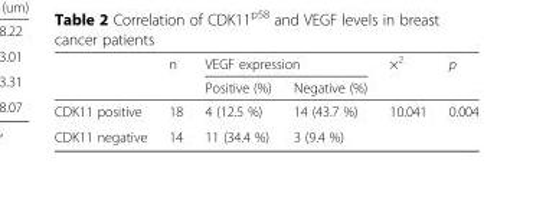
<table><thead><tr><td rowspan="2"></td><td rowspan="2">n</td><td colspan="2">VEGF expression</td><td rowspan="2">×<sup>2</sup></td><td rowspan="2">p</td></tr><tr><td>Positive (%)</td><td>Negative (%)</td></tr></thead><tbody><tr><td>CDK11 positive</td><td>18</td><td>4 (12.5 %)</td><td>14 (43.7 %)</td><td>10.041</td><td>0.004</td></tr><tr><td>CDK11 negative</td><td>14</td><td>11 (34.4 %)</td><td>3 (9.4 %)</td><td></td><td></td></tr></tbody></table>